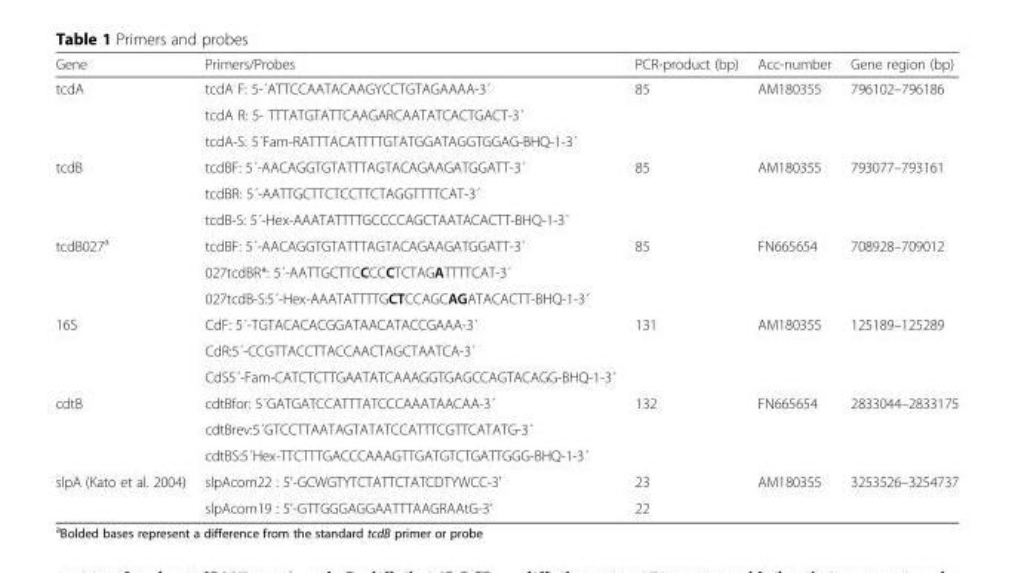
<table><thead><tr><td>Gene</td><td>Primers/Probes</td><td>PCR-product (bp)</td><td>Acc-number</td><td>Gene region (bp)</td></tr></thead><tbody><tr><td rowspan="3">tcdA</td><td>tcdA F: 5-´ATTCCAATACAAGYCCTGTAGAAAA-3´</td><td rowspan="3">85</td><td rowspan="3">AM180355</td><td rowspan="3">796102–796186</td></tr><tr><td>tcdA R: 5- TTTATGTATTCAAGARCAATATCACTGACT-3´</td></tr><tr><td>tcdA-S: 5´Fam-RATTTACATTTTGTATGGATAGGTGGAG-BHQ-1-3´</td></tr><tr><td rowspan="3">tcdB</td><td>tcdBF: 5´-AACAGGTGTATTTAGTACAGAAGATGGATT-3´</td><td rowspan="3">85</td><td rowspan="3">AM180355</td><td rowspan="3">793077–793161</td></tr><tr><td>tcdBR: 5´-AATTGCTTCTCCTTCTAGGTTTTCAT-3´</td></tr><tr><td>tcdB-S: 5´-Hex-AAATATTTTGCCCCAGCTAATACACTT-BHQ-1-3´</td></tr><tr><td rowspan="3">tcdB027<sup>a</sup></td><td>tcdBF: 5´-AACAGGTGTATTTAGTACAGAAGATGGATT-3´</td><td rowspan="3">85</td><td rowspan="3">FN665654</td><td rowspan="3">708928–709012</td></tr><tr><td>027tcdBR*: 5´-AATTGCTTCCCCCTCTAGATTTTCAT-3´</td></tr><tr><td>027tcdB-S:5´-Hex-AAATATTTTGCTCCAGCAGATACACTT-BHQ-1-3´</td></tr><tr><td rowspan="3">16S</td><td>CdF: 5´-TGTACACACGGATAACATACCGAAA-3´</td><td rowspan="3">131</td><td rowspan="3">AM180355</td><td rowspan="3">125189–125289</td></tr><tr><td>CdR:5´-CCGTTACCTTACCAACTAGCTAATCA-3´</td></tr><tr><td>CdS5´-Fam-CATCTCTTGAATATCAAAGGTGAGCCAGTACAGG-BHQ-1-3´</td></tr><tr><td rowspan="3">cdtB</td><td>cdtBfor: 5´GATGATCCATTTATCCCAAATAACAA-3´</td><td rowspan="3">132</td><td rowspan="3">FN665654</td><td rowspan="3">2833044–2833175</td></tr><tr><td>cdtBrev:5´GTCCTTAATAGTATATCCATTTCGTTCATATG-3´</td></tr><tr><td>cdtBS:5´Hex-TTCTTTGACCCAAAGTTGATGTCTGATTGGG-BHQ-1-3´</td></tr><tr><td rowspan="2">slpA (Kato et al. 2004)</td><td>slpAcom22 : 5&#x27;-GCWGTYTCTATTCTATCDTYWCC-3&#x27;</td><td>23</td><td rowspan="2">AM180355</td><td rowspan="2">3253526–3254737</td></tr><tr><td>slpAcom19 : 5&#x27;-GTTGGGAGGAATTTAAGRAAtG-3&#x27;</td><td>22</td></tr></tbody></table>